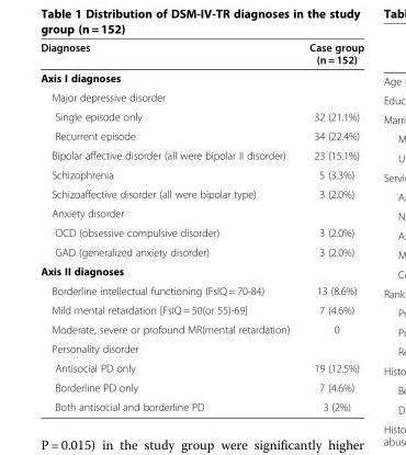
<table><thead><tr><td>Diagnoses</td><td>Case group (n = 152)</td></tr></thead><tbody><tr><td colspan="2">Axis I diagnoses</td></tr><tr><td colspan="2">Major depressive disorder</td></tr><tr><td>Single episode only</td><td>32 (21.1%)</td></tr><tr><td>Recurrent episode</td><td>34 (22.4%)</td></tr><tr><td>Bipolar affective disorder (all were bipolar II disorder)</td><td>23 (15.1%)</td></tr><tr><td>Schizophrenia</td><td>5 (3.3%)</td></tr><tr><td>Schizoaffective disorder (all were bipolar type)</td><td>3 (2.0%)</td></tr><tr><td colspan="2">Anxiety disorder</td></tr><tr><td>OCD (obsessive compulsive disorder)</td><td>3 (2.0%)</td></tr><tr><td>GAD (generalized anxiety disorder)</td><td>3 (2.0%)</td></tr><tr><td colspan="2">Axis II diagnoses</td></tr><tr><td>Borderline intellectual functioning (FsIQ = 70-84)</td><td>13 (8.6%)</td></tr><tr><td>Mild mental retardation [FsIQ = 50(or 55)-69]</td><td>7 (4.6%)</td></tr><tr><td>Moderate, severe or profound MR(mental retardation)</td><td>0</td></tr><tr><td colspan="2">Personality disorder</td></tr><tr><td>Antisocial PD only</td><td>19 (12.5%)</td></tr><tr><td>Borderline PD only</td><td>7 (4.6%)</td></tr><tr><td>Both antisocial and borderline PD</td><td>3 (2%)</td></tr></tbody></table>